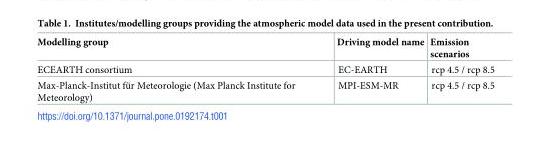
<table><thead><tr><td>Modelling group</td><td>Driving model name</td><td>Emission scenarios</td></tr></thead><tbody><tr><td>ECEARTH consortium</td><td>EC-EARTH</td><td>rcp 4.5 / rcp 8.5</td></tr><tr><td>Max-Planck-Institut fu¨r Meteorologie (Max Planck Institute for Meteorology)</td><td>MPI-ESM-MR</td><td>rcp 4.5 / rcp 8.5</td></tr></tbody></table>